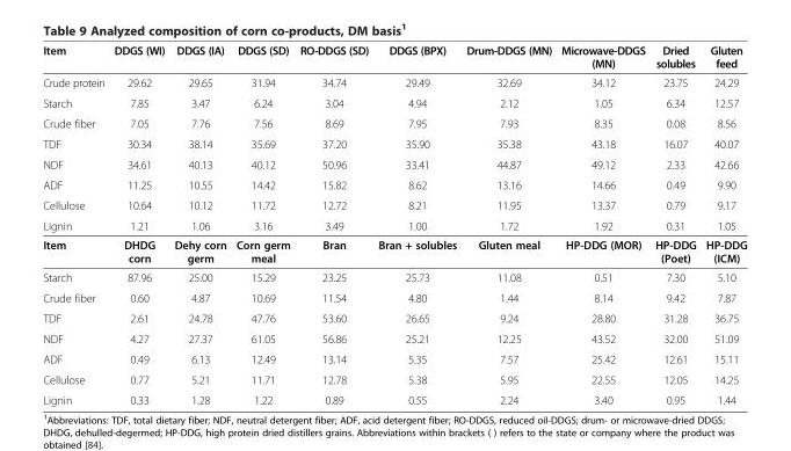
<table><thead><tr><td>Item</td><td>DDGS (WI)</td><td>DDGS (IA)</td><td>DDGS (SD)</td><td>RO-DDGS (SD)</td><td>DDGS (BPX)</td><td>Drum-DDGS (MN)</td><td>Microwave-DDGS (MN)</td><td>Dried solubles</td><td>Gluten feed</td></tr></thead><tbody><tr><td>Crude protein</td><td>29.62</td><td>29.65</td><td>31.94</td><td>34.74</td><td>29.49</td><td>32.69</td><td>34.12</td><td>23.75</td><td>24.29</td></tr><tr><td>Starch</td><td>7.85</td><td>3.47</td><td>6.24</td><td>3.04</td><td>4.94</td><td>2.12</td><td>1.05</td><td>6.34</td><td>12.57</td></tr><tr><td>Crude fiber</td><td>7.05</td><td>7.76</td><td>7.56</td><td>8.69</td><td>7.95</td><td>7.93</td><td>8.35</td><td>0.08</td><td>8.56</td></tr><tr><td>TDF</td><td>30.34</td><td>38.14</td><td>35.69</td><td>37.20</td><td>35.90</td><td>35.38</td><td>43.18</td><td>16.07</td><td>40.07</td></tr><tr><td>NDF</td><td>34.61</td><td>40.13</td><td>40.12</td><td>50.96</td><td>33.41</td><td>44.87</td><td>49.12</td><td>2.33</td><td>42.66</td></tr><tr><td>ADF</td><td>11.25</td><td>10.55</td><td>14.42</td><td>15.82</td><td>8.62</td><td>13.16</td><td>14.66</td><td>0.49</td><td>9.90</td></tr><tr><td>Cellulose</td><td>10.64</td><td>10.12</td><td>11.72</td><td>12.72</td><td>8.21</td><td>11.95</td><td>13.37</td><td>0.79</td><td>9.17</td></tr><tr><td>Lignin</td><td>1.21</td><td>1.06</td><td>3.16</td><td>3.49</td><td>1.00</td><td>1.72</td><td>1.92</td><td>0.31</td><td>1.05</td></tr><tr><td>Item</td><td>DHDG corn</td><td>Dehy corn germ</td><td>Corn germ meal</td><td>Bran</td><td>Bran + solubles</td><td>Gluten meal</td><td>HP-DDG (MOR)</td><td>HP-DDG (Poet)</td><td>HP-DDG (ICM)</td></tr><tr><td>Starch</td><td>87.96</td><td>25.00</td><td>15.29</td><td>23.25</td><td>25.73</td><td>11.08</td><td>0.51</td><td>7.30</td><td>5.10</td></tr><tr><td>Crude fiber</td><td>0.60</td><td>4.87</td><td>10.69</td><td>11.54</td><td>4.80</td><td>1.44</td><td>8.14</td><td>9.42</td><td>7.87</td></tr><tr><td>TDF</td><td>2.61</td><td>24.78</td><td>47.76</td><td>53.60</td><td>26.65</td><td>9.24</td><td>28.80</td><td>31.28</td><td>36.75</td></tr><tr><td>NDF</td><td>4.27</td><td>27.37</td><td>61.05</td><td>56.86</td><td>25.21</td><td>12.25</td><td>43.52</td><td>32.00</td><td>51.09</td></tr><tr><td>ADF</td><td>0.49</td><td>6.13</td><td>12.49</td><td>13.14</td><td>5.35</td><td>7.57</td><td>25.42</td><td>12.61</td><td>15.11</td></tr><tr><td>Cellulose</td><td>0.77</td><td>5.21</td><td>11.71</td><td>12.78</td><td>5.38</td><td>5.95</td><td>22.55</td><td>12.05</td><td>14.25</td></tr><tr><td>Lignin</td><td>0.33</td><td>1.28</td><td>1.22</td><td>0.89</td><td>0.55</td><td>2.24</td><td>3.40</td><td>0.95</td><td>1.44</td></tr></tbody></table>